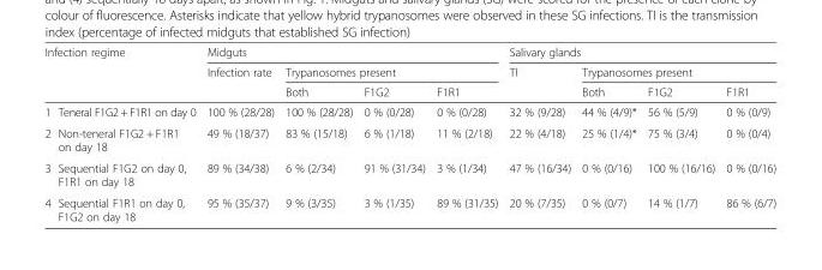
<table><thead><tr><td rowspan="3">Infection regime</td><td colspan="4">Midguts</td><td colspan="4">Salivary glands</td></tr><tr><td rowspan="2">Infection rate</td><td colspan="3">Trypanosomes present</td><td rowspan="2">TI</td><td colspan="3">Trypanosomes present</td></tr><tr><td>Both</td><td>F1G2</td><td>F1R1</td><td>Both</td><td>F1G2</td><td>F1R1</td></tr></thead><tbody><tr><td>1 Teneral F1G2 + F1R1 on day 0</td><td>100 % (28/28)</td><td>100 % (28/28)</td><td>0 % (0/28)</td><td>0 % (0/28)</td><td>32 % (9/28)</td><td>44 % (4/9)*</td><td>56 % (5/9)</td><td>0 % (0/9)</td></tr><tr><td>2 Non-teneral F1G2 + F1R1 on day 18</td><td>49 % (18/37)</td><td>83 % (15/18)</td><td>6 % (1/18)</td><td>11 % (2/18)</td><td>22 % (4/18)</td><td>25 % (1/4)*</td><td>75 % (3/4)</td><td>0 % (0/4)</td></tr><tr><td>3 Sequential F1G2 on day 0, F1R1 on day 18</td><td>89 % (34/38)</td><td>6 % (2/34)</td><td>91 % (31/34)</td><td>3 % (1/34)</td><td>47 % (16/34)</td><td>0 % (0/16)</td><td>100 % (16/16)</td><td>0 % (0/16)</td></tr><tr><td>4 Sequential F1R1 on day 0, F1G2 on day 18</td><td>95 % (35/37)</td><td>9 % (3/35)</td><td>3 % (1/35)</td><td>89 % (31/35)</td><td>20 % (7/35)</td><td>0 % (0/7)</td><td>14 % (1/7)</td><td>86 % (6/7)</td></tr></tbody></table>